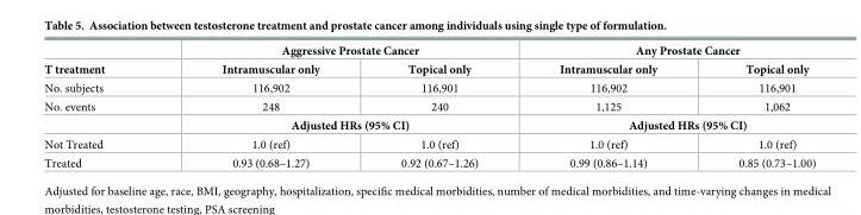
<table><thead><tr><td rowspan="2">T treatment</td><td colspan="2">Aggressive Prostate Cancer</td><td colspan="2">Any Prostate Cancer</td></tr><tr><td>Intramuscular only</td><td>Topical only</td><td>Intramuscular only</td><td>Topical only</td></tr></thead><tbody><tr><td>No. subjects</td><td>116,902</td><td>116,901</td><td>116,902</td><td>116,901</td></tr><tr><td rowspan="2">No. events</td><td>248</td><td>240</td><td>1,125</td><td>1,062</td></tr><tr><td colspan="2">Adjusted HRs (95% CI)</td><td colspan="2">Adjusted HRs (95% CI)</td></tr><tr><td>Not Treated</td><td>1.0 (ref)</td><td>1.0 (ref)</td><td>1.0 (ref)</td><td>1.0 (ref)</td></tr><tr><td>Treated</td><td>0.93 (0.68–1.27)</td><td>0.92 (0.67–1.26)</td><td>0.99 (0.86–1.14)</td><td>0.85 (0.73–1.00)</td></tr></tbody></table>